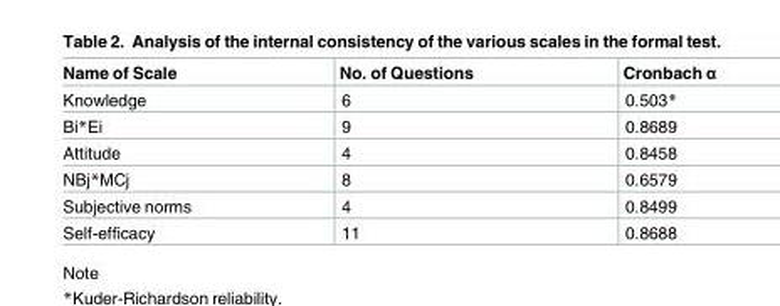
<table><thead><tr><td>Name of Scale</td><td>No. of Questions</td><td>Cronbach α</td></tr></thead><tbody><tr><td>Knowledge</td><td>6</td><td>0.503*</td></tr><tr><td>Bi*Ei</td><td>9</td><td>0.8689</td></tr><tr><td>Attitude</td><td>4</td><td>0.8458</td></tr><tr><td>NBj*MCj</td><td>8</td><td>0.6579</td></tr><tr><td>Subjective norms</td><td>4</td><td>0.8499</td></tr><tr><td>Self-efficacy</td><td>11</td><td>0.8688</td></tr></tbody></table>